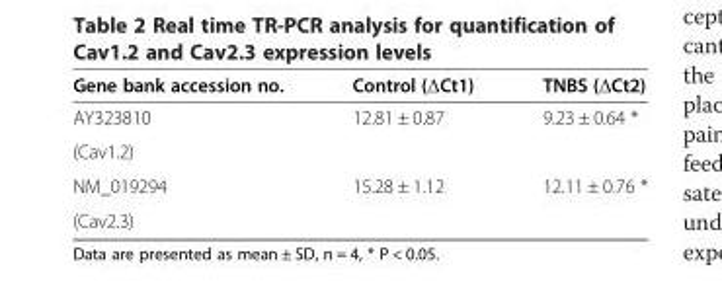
<table><thead><tr><td>Gene bank accession no.</td><td>Control (ΔCt1)</td><td>TNBS (ΔCt2)</td></tr></thead><tbody><tr><td>AY323810</td><td rowspan="2">12.81 ± 0.87</td><td rowspan="2">9.23 ± 0.64 *</td></tr><tr><td>(Cav1.2)</td></tr><tr><td>NM_019294</td><td rowspan="2">15.28 ± 1.12</td><td rowspan="2">12.11 ± 0.76 *</td></tr><tr><td>(Cav2.3)</td></tr></tbody></table>